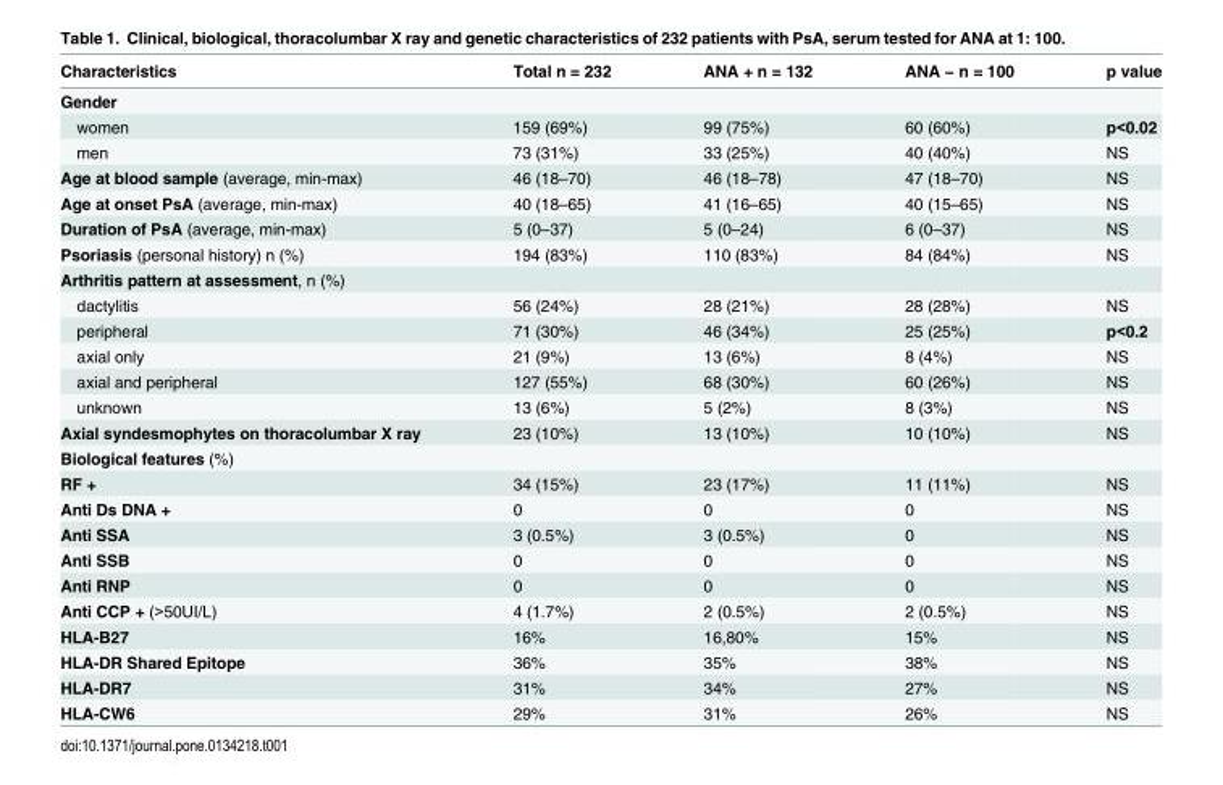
<table><thead><tr><td>Characteristics</td><td>Total n = 232</td><td>ANA + n = 132</td><td>ANA − n = 100</td><td>p value</td></tr></thead><tbody><tr><td colspan="5">Gender</td></tr><tr><td>women</td><td>159 (69%)</td><td>99 (75%)</td><td>60 (60%)</td><td>p&lt;0.02</td></tr><tr><td>men</td><td>73 (31%)</td><td>33 (25%)</td><td>40 (40%)</td><td>NS</td></tr><tr><td>Age at blood sample (average, min-max)</td><td>46 (18–70)</td><td>46 (18–78)</td><td>47 (18–70)</td><td>NS</td></tr><tr><td>Age at onset PsA (average, min-max)</td><td>40 (18–65)</td><td>41 (16–65)</td><td>40 (15–65)</td><td>NS</td></tr><tr><td>Duration of PsA (average, min-max)</td><td>5 (0–37)</td><td>5 (0–24)</td><td>6 (0–37)</td><td>NS</td></tr><tr><td>Psoriasis (personal history) n (%)</td><td>194 (83%)</td><td>110 (83%)</td><td>84 (84%)</td><td>NS</td></tr><tr><td colspan="5">Arthritis pattern at assessment, n (%)</td></tr><tr><td>dactylitis</td><td>56 (24%)</td><td>28 (21%)</td><td>28 (28%)</td><td>NS</td></tr><tr><td>peripheral</td><td>71 (30%)</td><td>46 (34%)</td><td>25 (25%)</td><td>p&lt;0.2</td></tr><tr><td>axial only</td><td>21 (9%)</td><td>13 (6%)</td><td>8 (4%)</td><td>NS</td></tr><tr><td>axial and peripheral</td><td>127 (55%)</td><td>68 (30%)</td><td>60 (26%)</td><td>NS</td></tr><tr><td>unknown</td><td>13 (6%)</td><td>5 (2%)</td><td>8 (3%)</td><td>NS</td></tr><tr><td>Axial syndesmophytes on thoracolumbar X ray</td><td>23 (10%)</td><td>13 (10%)</td><td>10 (10%)</td><td>NS</td></tr><tr><td colspan="5">Biological features (%)</td></tr><tr><td>RF +</td><td>34 (15%)</td><td>23 (17%)</td><td>11 (11%)</td><td>NS</td></tr><tr><td>Anti Ds DNA +</td><td>0</td><td>0</td><td>0</td><td>NS</td></tr><tr><td>Anti SSA</td><td>3 (0.5%)</td><td>3 (0.5%)</td><td>0</td><td>NS</td></tr><tr><td>Anti SSB</td><td>0</td><td>0</td><td>0</td><td>NS</td></tr><tr><td>Anti RNP</td><td>0</td><td>0</td><td>0</td><td>NS</td></tr><tr><td>Anti CCP + (&gt;50UI/L)</td><td>4 (1.7%)</td><td>2 (0.5%)</td><td>2 (0.5%)</td><td>NS</td></tr><tr><td>HLA-B27</td><td>16%</td><td>16,80%</td><td>15%</td><td>NS</td></tr><tr><td>HLA-DR Shared Epitope</td><td>36%</td><td>35%</td><td>38%</td><td>NS</td></tr><tr><td>HLA-DR7</td><td>31%</td><td>34%</td><td>27%</td><td>NS</td></tr><tr><td>HLA-CW6</td><td>29%</td><td>31%</td><td>26%</td><td>NS</td></tr></tbody></table>